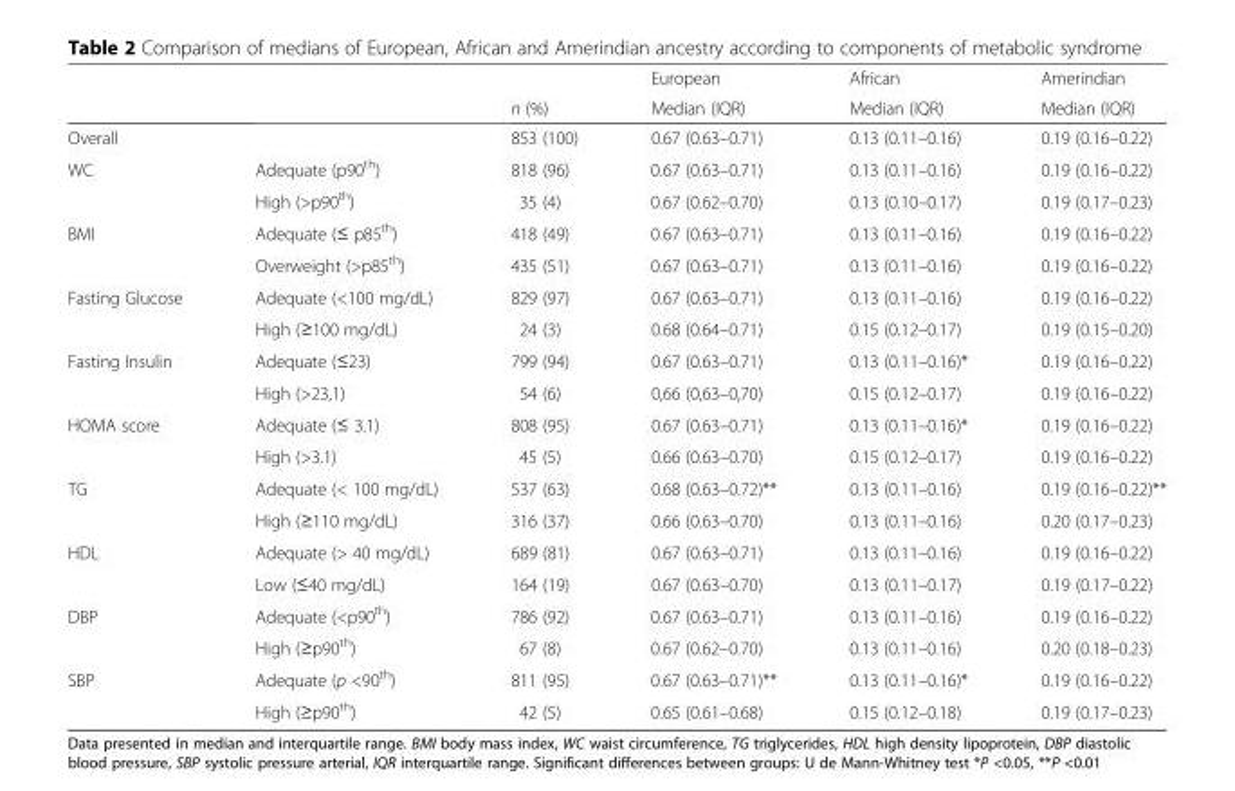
<table><thead><tr><td rowspan="2"></td><td rowspan="2"></td><td rowspan="2">n (%)</td><td rowspan="2">European Median (IQR)</td><td rowspan="2">African Median (IQR)</td><td rowspan="2">Amerindian Median (IQR)</td></tr><tr></tr></thead><tbody><tr><td>Overall</td><td></td><td>853 (100)</td><td>0.67 (0.63–0.71)</td><td>0.13 (0.11–0.16)</td><td>0.19 (0.16–0.22)</td></tr><tr><td rowspan="2">WC</td><td>Adequate (p90<sup>th</sup>)</td><td>818 (96)</td><td>0.67 (0.63–0.71)</td><td>0.13 (0.11–0.16)</td><td>0.19 (0.16–0.22)</td></tr><tr><td>High (&gt;p90<sup>th</sup>)</td><td>35 (4)</td><td>0.67 (0.62–0.70)</td><td>0.13 (0.10–0.17)</td><td>0.19 (0.17–0.23)</td></tr><tr><td rowspan="2">BMI</td><td>Adequate (≤ p85<sup>th</sup>)</td><td>418 (49)</td><td>0.67 (0.63–0.71)</td><td>0.13 (0.11–0.16)</td><td>0.19 (0.16–0.22)</td></tr><tr><td>Overweight (&gt;p85<sup>th</sup>)</td><td>435 (51)</td><td>0.67 (0.63–0.71)</td><td>0.13 (0.11–0.16)</td><td>0.19 (0.16–0.22)</td></tr><tr><td rowspan="2">Fasting Glucose</td><td>Adequate (&lt;100 mg/dL)</td><td>829 (97)</td><td>0.67 (0.63–0.71)</td><td>0.13 (0.11–0.16)</td><td>0.19 (0.16–0.22)</td></tr><tr><td>High (≥100 mg/dL)</td><td>24 (3)</td><td>0.68 (0.64–0.71)</td><td>0.15 (0.12–0.17)</td><td>0.19 (0.15–0.20)</td></tr><tr><td rowspan="2">Fasting Insulin</td><td>Adequate (≤23)</td><td>799 (94)</td><td>0.67 (0.63–0.71)</td><td>0.13 (0.11–0.16)*</td><td>0.19 (0.16–0.22)</td></tr><tr><td>High (&gt;23,1)</td><td>54 (6)</td><td>0,66 (0,63–0,70)</td><td>0.15 (0.12–0.17)</td><td>0.19 (0.16–0.22)</td></tr><tr><td rowspan="2">HOMA score</td><td>Adequate (≤ 3.1)</td><td>808 (95)</td><td>0.67 (0.63–0.71)</td><td>0.13 (0.11–0.16)*</td><td>0.19 (0.16–0.22)</td></tr><tr><td>High (&gt;3.1)</td><td>45 (5)</td><td>0.66 (0.63–0.70)</td><td>0.15 (0.12–0.17)</td><td>0.19 (0.16–0.22)</td></tr><tr><td rowspan="2">TG</td><td>Adequate (&lt; 100 mg/dL)</td><td>537 (63)</td><td>0.68 (0.63–0.72)**</td><td>0.13 (0.11–0.16)</td><td>0.19 (0.16–0.22)**</td></tr><tr><td>High (≥110 mg/dL)</td><td>316 (37)</td><td>0.66 (0.63–0.70)</td><td>0.13 (0.11–0.16)</td><td>0.20 (0.17–0.23)</td></tr><tr><td rowspan="2">HDL</td><td>Adequate (&gt; 40 mg/dL)</td><td>689 (81)</td><td>0.67 (0.63–0.71)</td><td>0.13 (0.11–0.16)</td><td>0.19 (0.16–0.22)</td></tr><tr><td>Low (≤40 mg/dL)</td><td>164 (19)</td><td>0.67 (0.63–0.70)</td><td>0.13 (0.11–0.17)</td><td>0.19 (0.17–0.22)</td></tr><tr><td rowspan="2">DBP</td><td>Adequate (&lt;p90<sup>th</sup>)</td><td>786 (92)</td><td>0.67 (0.63–0.71)</td><td>0.13 (0.11–0.16)</td><td>0.19 (0.16–0.22)</td></tr><tr><td>High (≥p90<sup>th</sup>)</td><td>67 (8)</td><td>0.67 (0.62–0.70)</td><td>0.13 (0.11–0.16)</td><td>0.20 (0.18–0.23)</td></tr><tr><td rowspan="2">SBP</td><td>Adequate (p &lt;90<sup>th</sup>)</td><td>811 (95)</td><td>0.67 (0.63–0.71)**</td><td>0.13 (0.11–0.16)*</td><td>0.19 (0.16–0.22)</td></tr><tr><td>High (≥p90<sup>th</sup>)</td><td>42 (5)</td><td>0.65 (0.61–0.68)</td><td>0.15 (0.12–0.18)</td><td>0.19 (0.17–0.23)</td></tr></tbody></table>